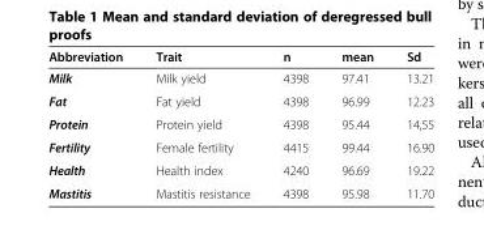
<table><thead><tr><td>Abbreviation</td><td>Trait</td><td>n</td><td>mean</td><td>Sd</td></tr></thead><tbody><tr><td>Milk</td><td>Milk yield</td><td>4398</td><td>97.41</td><td>13.21</td></tr><tr><td>Fat</td><td>Fat yield</td><td>4398</td><td>96.99</td><td>12.23</td></tr><tr><td>Protein</td><td>Protein yield</td><td>4398</td><td>95.44</td><td>14,55</td></tr><tr><td>Fertility</td><td>Female fertility</td><td>4415</td><td>99.44</td><td>16.90</td></tr><tr><td>Health</td><td>Health index</td><td>4240</td><td>96.69</td><td>19.22</td></tr><tr><td>Mastitis</td><td>Mastitis resistance</td><td>4398</td><td>95.98</td><td>11.70</td></tr></tbody></table>